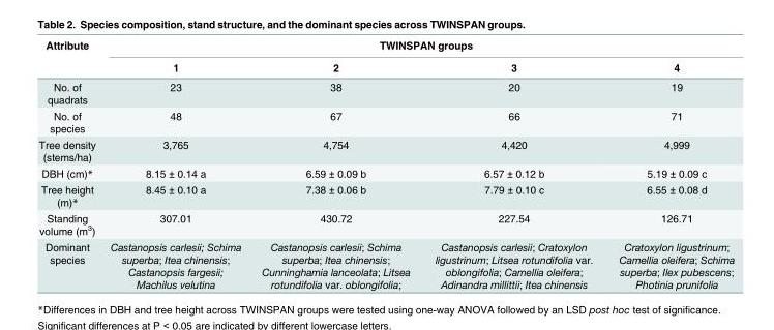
<table><thead><tr><td rowspan="2">Attribute</td><td colspan="4">TWINSPAN groups</td></tr><tr><td>1</td><td>2</td><td>3</td><td>4</td></tr></thead><tbody><tr><td>No. of quadrats</td><td>23</td><td>38</td><td>20</td><td>19</td></tr><tr><td>No. of species</td><td>48</td><td>67</td><td>66</td><td>71</td></tr><tr><td>Tree density (stems/ha)</td><td>3,765</td><td>4,754</td><td>4,420</td><td>4,999</td></tr><tr><td>DBH (cm)*</td><td>8.15 ± 0.14 a</td><td>6.59 ± 0.09 b</td><td>6.57 ± 0.12 b</td><td>5.19 ± 0.09 c</td></tr><tr><td>Tree height (m)*</td><td>8.45 ± 0.10 a</td><td>7.38 ± 0.06 b</td><td>7.79 ± 0.10 c</td><td>6.55 ± 0.08 d</td></tr><tr><td>Standing volume (m<sup>3</sup>)</td><td>307.01</td><td>430.72</td><td>227.54</td><td>126.71</td></tr><tr><td>Dominant species</td><td>Castanopsis carlesii; Schima superba; Itea chinensis; Castanopsis fargesii; Machilus velutina</td><td>Castanopsis carlesii; Schima superba; Itea chinensis; Cunninghamia lanceolata; Litsea rotundifolia var. oblongifolia;</td><td>Castanopsis carlesii; Cratoxylon ligustrinum; Litsea rotundifolia var. oblongifolia; Camellia oleifera; Adinandra millittii; Itea chinensis</td><td>Cratoxylon ligustrinum; Camellia oleifera; Schima superba; Ilex pubescens; Photinia prunifolia</td></tr></tbody></table>